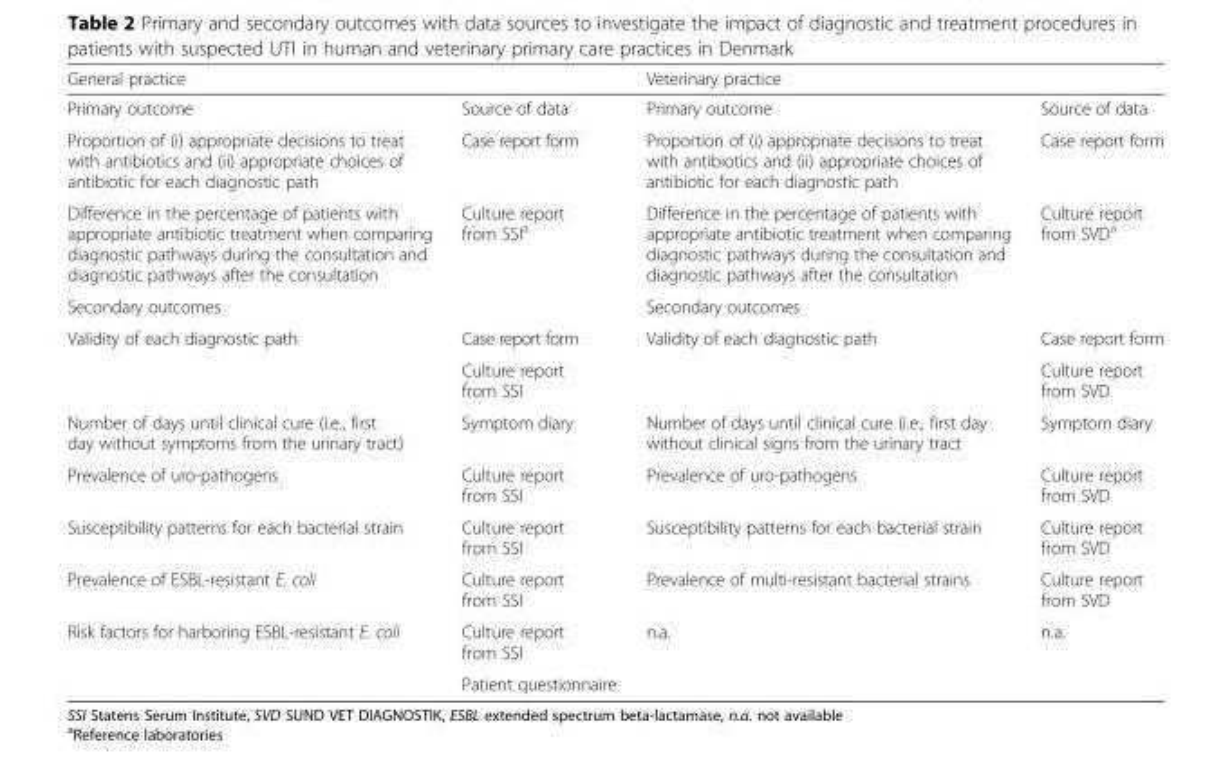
<table><thead><tr><td colspan="2">General practice</td><td colspan="2">Veterinary practice</td></tr><tr><td>Primary outcome</td><td>Source of data</td><td>Primary outcome</td><td>Source of data</td></tr></thead><tbody><tr><td>Proportion of (i) appropriate decisions to treat with antibiotics and (ii) appropriate choices of antibiotic for each diagnostic path</td><td>Case report form</td><td>Proportion of (i) appropriate decisions to treat with antibiotics and (ii) appropriate choices of antibiotic for each diagnostic path</td><td>Case report form</td></tr><tr><td>Difference in the percentage of patients with appropriate antibiotic treatment when comparing diagnostic pathways during the consultation and diagnostic pathways after the consultation</td><td>Culture report from SSI<sup>a</sup></td><td>Difference in the percentage of patients with appropriate antibiotic treatment when comparing diagnostic pathways during the consultation and diagnostic pathways after the consultation</td><td>Culture report from SVD<sup>a</sup></td></tr><tr><td>Secondary outcomes</td><td></td><td>Secondary outcomes</td><td></td></tr><tr><td rowspan="2">Validity of each diagnostic path</td><td>Case report form</td><td rowspan="2">Validity of each diagnostic path</td><td>Case report form</td></tr><tr><td>Culture report from SSI</td><td>Culture report from SVD</td></tr><tr><td>Number of days until clinical cure (i.e., first day without symptoms from the urinary tract)</td><td>Symptom diary</td><td>Number of days until clinical cure (i.e., first day without clinical signs from the urinary tract</td><td>Symptom diary</td></tr><tr><td>Prevalence of uro-pathogens</td><td>Culture report from SSI</td><td>Prevalence of uro-pathogens</td><td>Culture report from SVD</td></tr><tr><td>Susceptibility patterns for each bacterial strain</td><td>Culture report from SSI</td><td>Susceptibility patterns for each bacterial strain</td><td>Culture report from SVD</td></tr><tr><td>Prevalence of ESBL-resistant E. coli</td><td>Culture report from SSI</td><td>Prevalence of multi-resistant bacterial strains</td><td>Culture report from SVD</td></tr><tr><td rowspan="2">Risk factors for harboring ESBL-resistant E. coli</td><td>Culture report from SSI</td><td rowspan="2">n.a.</td><td rowspan="2">n.a.</td></tr><tr><td>Patient questionnaire</td></tr></tbody></table>